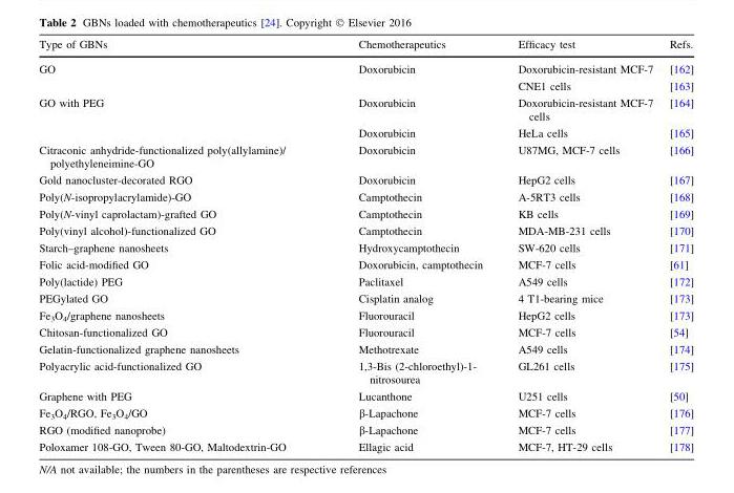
<table><thead><tr><td>Type of GBNs</td><td>Chemotherapeutics</td><td>Efficacy test</td><td>Refs.</td></tr></thead><tbody><tr><td rowspan="2">GO</td><td>Doxorubicin</td><td>Doxorubicin-resistant MCF-7</td><td>[162]</td></tr><tr><td></td><td>CNE1 cells</td><td>[163]</td></tr><tr><td rowspan="2">GO with PEG</td><td>Doxorubicin</td><td>Doxorubicin-resistant MCF-7 cells</td><td>[164]</td></tr><tr><td>Doxorubicin</td><td>HeLa cells</td><td>[165]</td></tr><tr><td>Citraconic anhydride-functionalized poly(allylamine)/ polyethyleneimine-GO</td><td>Doxorubicin</td><td>U87MG, MCF-7 cells</td><td>[166]</td></tr><tr><td>Gold nanocluster-decorated RGO</td><td>Doxorubicin</td><td>HepG2 cells</td><td>[167]</td></tr><tr><td>Poly(N-isopropylacrylamide)-GO</td><td>Camptothecin</td><td>A-5RT3 cells</td><td>[168]</td></tr><tr><td>Poly(N-vinyl caprolactam)-grafted GO</td><td>Camptothecin</td><td>KB cells</td><td>[169]</td></tr><tr><td>Poly(vinyl alcohol)-functionalized GO</td><td>Camptothecin</td><td>MDA-MB-231 cells</td><td>[170]</td></tr><tr><td>Starch–graphene nanosheets</td><td>Hydroxycamptothecin</td><td>SW-620 cells</td><td>[171]</td></tr><tr><td>Folic acid-modified GO</td><td>Doxorubicin, camptothecin</td><td>MCF-7 cells</td><td>[61]</td></tr><tr><td>Poly(lactide) PEG</td><td>Paclitaxel</td><td>A549 cells</td><td>[172]</td></tr><tr><td>PEGylated GO</td><td>Cisplatin analog</td><td>4 T1-bearing mice</td><td>[173]</td></tr><tr><td>Fe<sub>3</sub>O<sub>4</sub>/graphene nanosheets</td><td>Fluorouracil</td><td>HepG2 cells</td><td>[173]</td></tr><tr><td>Chitosan-functionalized GO</td><td>Fluorouracil</td><td>MCF-7 cells</td><td>[54]</td></tr><tr><td>Gelatin-functionalized graphene nanosheets</td><td>Methotrexate</td><td>A549 cells</td><td>[174]</td></tr><tr><td>Polyacrylic acid-functionalized GO</td><td>1,3-Bis (2-chloroethyl)-1- nitrosourea</td><td>GL261 cells</td><td>[175]</td></tr><tr><td>Graphene with PEG</td><td>Lucanthone</td><td>U251 cells</td><td>[50]</td></tr><tr><td>Fe<sub>3</sub>O<sub>4</sub>/RGO, Fe<sub>3</sub>O<sub>4</sub>/GO</td><td>β-Lapachone</td><td>MCF-7 cells</td><td>[176]</td></tr><tr><td>RGO (modified nanoprobe)</td><td>β-Lapachone</td><td>MCF-7 cells</td><td>[177]</td></tr><tr><td>Poloxamer 108-GO, Tween 80-GO, Maltodextrin-GO</td><td>Ellagic acid</td><td>MCF-7, HT-29 cells</td><td>[178]</td></tr></tbody></table>